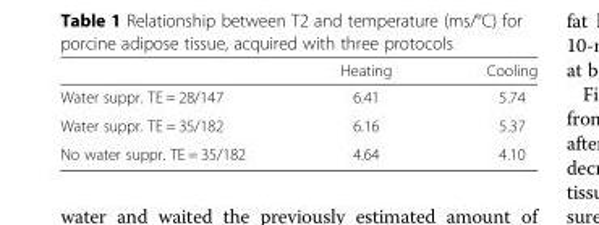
<table><thead><tr><td></td><td>Heating</td><td>Cooling</td></tr></thead><tbody><tr><td>Water suppr. TE = 28/147</td><td>6.41</td><td>5.74</td></tr><tr><td>Water suppr. TE = 35/182</td><td>6.16</td><td>5.37</td></tr><tr><td>No water suppr. TE = 35/182</td><td>4.64</td><td>4.10</td></tr></tbody></table>